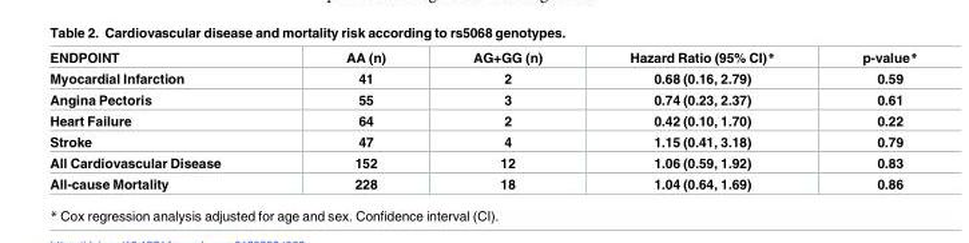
<table><thead><tr><td>ENDPOINT</td><td>AA (n)</td><td>AG+GG (n)</td><td>Hazard Ratio (95% CI)*</td><td>p-value*</td></tr></thead><tbody><tr><td>Myocardial Infarction</td><td>41</td><td>2</td><td>0.68 (0.16, 2.79)</td><td>0.59</td></tr><tr><td>Angina Pectoris</td><td>55</td><td>3</td><td>0.74 (0.23, 2.37)</td><td>0.61</td></tr><tr><td>Heart Failure</td><td>64</td><td>2</td><td>0.42 (0.10, 1.70)</td><td>0.22</td></tr><tr><td>Stroke</td><td>47</td><td>4</td><td>1.15 (0.41, 3.18)</td><td>0.79</td></tr><tr><td>All Cardiovascular Disease</td><td>152</td><td>12</td><td>1.06 (0.59, 1.92)</td><td>0.83</td></tr><tr><td>All-cause Mortality</td><td>228</td><td>18</td><td>1.04 (0.64, 1.69)</td><td>0.86</td></tr></tbody></table>